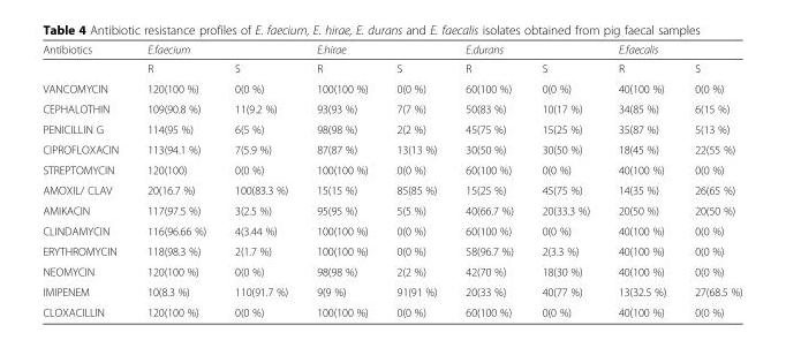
<table><thead><tr><td rowspan="2">Antibiotics</td><td colspan="2">E.faecium</td><td colspan="2">E.hirae</td><td colspan="2">E.durans</td><td colspan="2">E.faecalis</td></tr><tr><td>R</td><td>S</td><td>R</td><td>S</td><td>R</td><td>S</td><td>R</td><td>S</td></tr></thead><tbody><tr><td>VANCOMYCIN</td><td>120(100 %)</td><td>0(0 %)</td><td>100(100 %)</td><td>0(0 %)</td><td>60(100 %)</td><td>0(0 %)</td><td>40(100 %)</td><td>0(0 %)</td></tr><tr><td>CEPHALOTHIN</td><td>109(90.8 %)</td><td>11(9.2 %)</td><td>93(93 %)</td><td>7(7 %)</td><td>50(83 %)</td><td>10(17 %)</td><td>34(85 %)</td><td>6(15 %)</td></tr><tr><td>PENICILLIN G</td><td>114(95 %)</td><td>6(5 %)</td><td>98(98 %)</td><td>2(2 %)</td><td>45(75 %)</td><td>15(25 %)</td><td>35(87 %)</td><td>5(13 %)</td></tr><tr><td>CIPROFLOXACIN</td><td>113(94.1 %)</td><td>7(5.9 %)</td><td>87(87 %)</td><td>13(13 %)</td><td>30(50 %)</td><td>30(50 %)</td><td>18(45 %)</td><td>22(55 %)</td></tr><tr><td>STREPTOMYCIN</td><td>120(100)</td><td>0(0 %)</td><td>100(100 %)</td><td>0(0 %)</td><td>60(100 %)</td><td>0(0 %)</td><td>40(100 %)</td><td>0(0 %)</td></tr><tr><td>AMOXIL/ CLAV</td><td>20(16.7 %)</td><td>100(83.3 %)</td><td>15(15 %)</td><td>85(85 %)</td><td>15(25 %)</td><td>45(75 %)</td><td>14(35 %)</td><td>26(65 %)</td></tr><tr><td>AMIKACIN</td><td>117(97.5 %)</td><td>3(2.5 %)</td><td>95(95 %)</td><td>5(5 %)</td><td>40(66.7 %)</td><td>20(33.3 %)</td><td>20(50 %)</td><td>20(50 %)</td></tr><tr><td>CLINDAMYCIN</td><td>116(96.66 %)</td><td>4(3.44 %)</td><td>100(100 %)</td><td>0(0 %)</td><td>60(100 %)</td><td>0(0 %)</td><td>40(100 %)</td><td>0(0 %)</td></tr><tr><td>ERYTHROMYCIN</td><td>118(98.3 %)</td><td>2(1.7 %)</td><td>100(100 %)</td><td>0(0 %)</td><td>58(96.7 %)</td><td>2(3.3 %)</td><td>40(100 %)</td><td>0(0 %)</td></tr><tr><td>NEOMYCIN</td><td>120(100 %)</td><td>0(0 %)</td><td>98(98 %)</td><td>2(2 %)</td><td>42(70 %)</td><td>18(30 %)</td><td>40(100 %)</td><td>0(0 %)</td></tr><tr><td>IMIPENEM</td><td>10(8.3 %)</td><td>110(91.7 %)</td><td>9(9 %)</td><td>91(91 %)</td><td>20(33 %)</td><td>40(77 %)</td><td>13(32.5 %)</td><td>27(68.5 %)</td></tr><tr><td>CLOXACILLIN</td><td>120(100 %)</td><td>0(0 %)</td><td>100(100 %)</td><td>0(0 %)</td><td>60(100 %)</td><td>0(0 %)</td><td>40(100 %)</td><td>0(0 %)</td></tr></tbody></table>